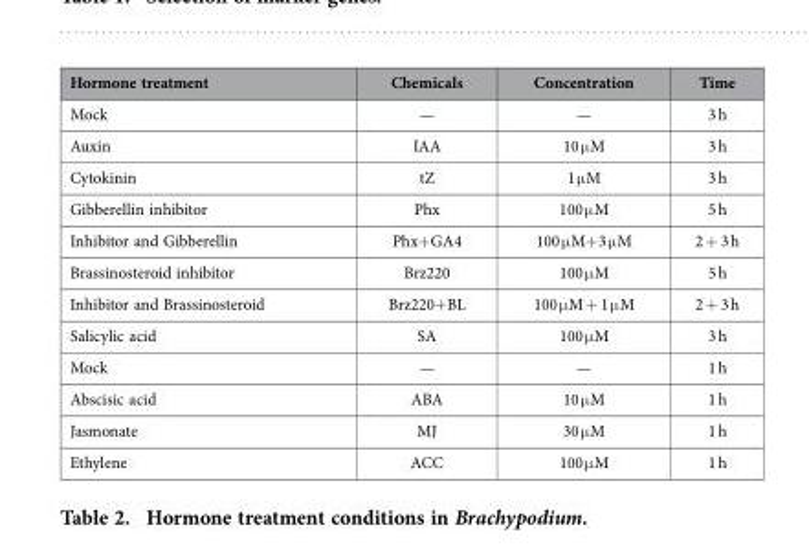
<table><thead><tr><td>Hormone treatment</td><td>Chemicals</td><td>Concentration</td><td>Time</td></tr></thead><tbody><tr><td>Mock</td><td>—</td><td>—</td><td>3 h</td></tr><tr><td>Auxin</td><td>IAA</td><td>10 μ M</td><td>3 h</td></tr><tr><td>Cytokinin</td><td>tZ</td><td>1 μ M</td><td>3 h</td></tr><tr><td>Gibberellin inhibitor</td><td>Phx</td><td>100 μ M</td><td>5 h</td></tr><tr><td>Inhibitor and Gibberellin</td><td>Phx+GA4</td><td>100 μ M+3 μ M</td><td>2 + 3 h</td></tr><tr><td>Brassinosteroid inhibitor</td><td>Brz220</td><td>100 μ M</td><td>5 h</td></tr><tr><td>Inhibitor and Brassinosteroid</td><td>Brz220+BL</td><td>100 μ M + 1 μ M</td><td>2 + 3 h</td></tr><tr><td>Salicylic acid</td><td>SA</td><td>100 μ M</td><td>3 h</td></tr><tr><td>Mock</td><td>—</td><td>—</td><td>1 h</td></tr><tr><td>Abscisic acid</td><td>ABA</td><td>10 μ M</td><td>1 h</td></tr><tr><td>Jasmonate</td><td>MJ</td><td>30 μ M</td><td>1 h</td></tr><tr><td>Ethylene</td><td>ACC</td><td>100 μ M</td><td>1 h</td></tr></tbody></table>